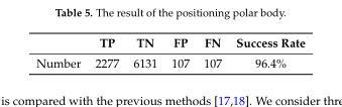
<table><thead><tr><td></td><td>TP</td><td>TN</td><td>FP</td><td>FN</td><td>Success Rate</td></tr></thead><tbody><tr><td>Number</td><td>2277</td><td>6131</td><td>107</td><td>107</td><td>96.4%</td></tr></tbody></table>